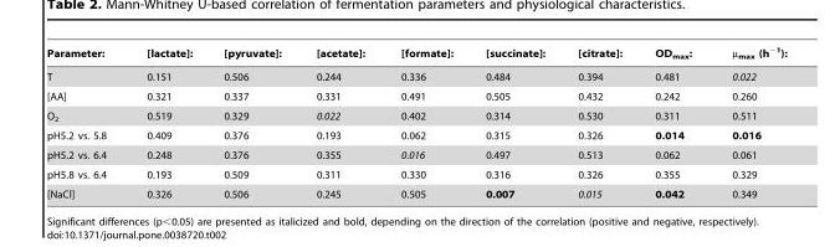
<table><thead><tr><td>Parameter:</td><td>[lactate]:</td><td>[pyruvate]:</td><td>[acetate]:</td><td>[formate]:</td><td>[succinate]:</td><td>[citrate]:</td><td>OD<sub>max</sub>:</td><td>µ<sub>max</sub> (h<sup>−1</sup>):</td></tr></thead><tbody><tr><td>T</td><td>0.151</td><td>0.506</td><td>0.244</td><td>0.336</td><td>0.484</td><td>0.394</td><td>0.481</td><td>0.022</td></tr><tr><td>[AA]</td><td>0.321</td><td>0.337</td><td>0.331</td><td>0.491</td><td>0.505</td><td>0.432</td><td>0.242</td><td>0.260</td></tr><tr><td>O<sub>2</sub></td><td>0.519</td><td>0.329</td><td>0.022</td><td>0.402</td><td>0.314</td><td>0.530</td><td>0.311</td><td>0.511</td></tr><tr><td>pH5.2 vs. 5.8</td><td>0.409</td><td>0.376</td><td>0.193</td><td>0.062</td><td>0.315</td><td>0.326</td><td>0.014</td><td>0.016</td></tr><tr><td>pH5.2 vs. 6.4</td><td>0.248</td><td>0.376</td><td>0.355</td><td>0.016</td><td>0.497</td><td>0.513</td><td>0.062</td><td>0.061</td></tr><tr><td>pH5.8 vs. 6.4</td><td>0.193</td><td>0.509</td><td>0.311</td><td>0.330</td><td>0.316</td><td>0.326</td><td>0.355</td><td>0.329</td></tr><tr><td>[NaCl]</td><td>0.326</td><td>0.506</td><td>0.245</td><td>0.505</td><td>0.007</td><td>0.015</td><td>0.042</td><td>0.349</td></tr></tbody></table>